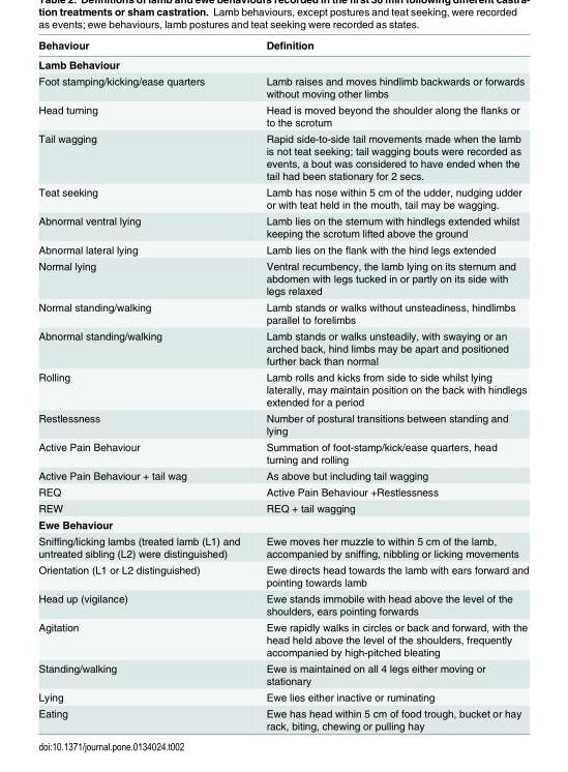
<table><thead><tr><td>Behaviour</td><td>Definition</td></tr></thead><tbody><tr><td colspan="2">Lamb Behaviour</td></tr><tr><td>Foot stamping/kicking/ease quarters</td><td>Lamb raises and moves hindlimb backwards or forwards without moving other limbs</td></tr><tr><td>Head turning</td><td>Head is moved beyond the shoulder along the flanks or to the scrotum</td></tr><tr><td>Tail wagging</td><td>Rapid side-to-side tail movements made when the lamb is not teat seeking; tail wagging bouts were recorded as events, a bout was considered to have ended when the tail had been stationary for 2 secs.</td></tr><tr><td>Teat seeking</td><td>Lamb has nose within 5 cm of the udder, nudging udder or with teat held in the mouth, tail may be wagging.</td></tr><tr><td>Abnormal ventral lying</td><td>Lamb lies on the sternum with hindlegs extended whilst keeping the scrotum lifted above the ground</td></tr><tr><td>Abnormal lateral lying</td><td>Lamb lies on the flank with the hind legs extended</td></tr><tr><td>Normal lying</td><td>Ventral recumbency, the lamb lying on its sternum and abdomen with legs tucked in or partly on its side with legs relaxed</td></tr><tr><td>Normal standing/walking</td><td>Lamb stands or walks without unsteadiness, hindlimbs parallel to forelimbs</td></tr><tr><td>Abnormal standing/walking</td><td>Lamb stands or walks unsteadily, with swaying or an arched back, hind limbs may be apart and positioned further back than normal</td></tr><tr><td>Rolling</td><td>Lamb rolls and kicks from side to side whilst lying laterally, may maintain position on the back with hindlegs extended for a period</td></tr><tr><td>Restlessness</td><td>Number of postural transitions between standing and lying</td></tr><tr><td>Active Pain Behaviour</td><td>Summation of foot-stamp/kick/ease quarters, head turning and rolling</td></tr><tr><td>Active Pain Behaviour + tail wag</td><td>As above but including tail wagging</td></tr><tr><td>REQ</td><td>Active Pain Behaviour +Restlessness</td></tr><tr><td>REW</td><td>REQ + tail wagging</td></tr><tr><td colspan="2">Ewe Behaviour</td></tr><tr><td>Sniffing/licking lambs (treated lamb (L1) and untreated sibling (L2) were distinguished)</td><td>Ewe moves her muzzle to within 5 cm of the lamb, accompanied by sniffing, nibbling or licking movements</td></tr><tr><td>Orientation (L1 or L2 distinguished)</td><td>Ewe directs head towards the lamb with ears forward and pointing towards lamb</td></tr><tr><td>Head up (vigilance)</td><td>Ewe stands immobile with head above the level of the shoulders, ears pointing forwards</td></tr><tr><td>Agitation</td><td>Ewe rapidly walks in circles or back and forward, with the head held above the level of the shoulders, frequently accompanied by high-pitched bleating</td></tr><tr><td>Standing/walking</td><td>Ewe is maintained on all 4 legs either moving or stationary</td></tr><tr><td>Lying</td><td>Ewe lies either inactive or ruminating</td></tr><tr><td>Eating</td><td>Ewe has head within 5 cm of food trough, bucket or hay rack, biting, chewing or pulling hay</td></tr></tbody></table>